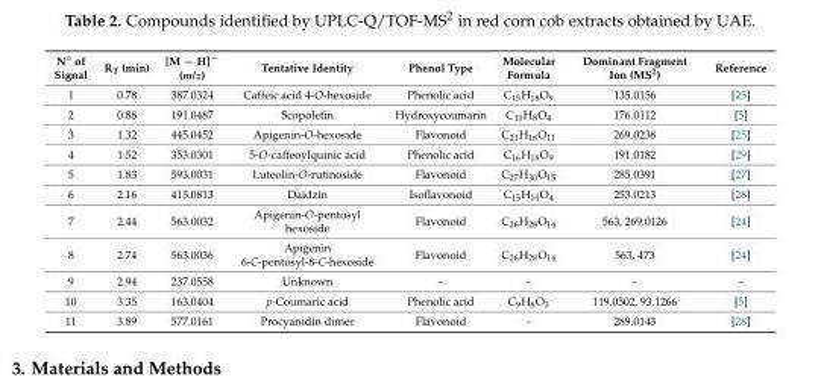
<table><thead><tr><td>N◦ of Signal</td><td>R<sub>T</sub> (min)</td><td>[M − H]<sup>−</sup> (m/z)</td><td>Tentative Identity</td><td>Phenol Type</td><td>Molecular Formula</td><td>Dominant Fragment Ion (MS<sup>2</sup>)</td><td>Reference</td></tr></thead><tbody><tr><td>1</td><td>0.78</td><td>387.0324</td><td>Caffeic acid 4-O-hexoside</td><td>Phenolic acid</td><td>C<sub>15</sub>H<sub>18</sub>O<sub>9</sub></td><td>135.0156</td><td>[25]</td></tr><tr><td>2</td><td>0.88</td><td>191.0487</td><td>Scopoletin</td><td>Hydroxycoumarin</td><td>C<sub>10</sub>H<sub>8</sub>O<sub>4</sub></td><td>176.0112</td><td>[5]</td></tr><tr><td>3</td><td>1.32</td><td>445.0452</td><td>Apigenin-O-hexoside</td><td>Flavonoid</td><td>C<sub>21</sub>H<sub>18</sub>O<sub>11</sub></td><td>269.0238</td><td>[25]</td></tr><tr><td>4</td><td>1.52</td><td>353.0301</td><td>5-O-caffeoylquinic acid</td><td>Phenolic acid</td><td>C<sub>16</sub>H<sub>18</sub>O<sub>9</sub></td><td>191.0182</td><td>[29]</td></tr><tr><td>5</td><td>1.83</td><td>593.0031</td><td>Luteolin-O-rutinoside</td><td>Flavonoid</td><td>C<sub>27</sub>H<sub>30</sub>O<sub>15</sub></td><td>285.0391</td><td>[27]</td></tr><tr><td>6</td><td>2.16</td><td>415.0813</td><td>Daidzin</td><td>Isoflavonoid</td><td>C<sub>15</sub>H<sub>10</sub>O<sub>4</sub></td><td>253.0213</td><td>[28]</td></tr><tr><td>7</td><td>2.44</td><td>563.0032</td><td>Apigenin-O-pentosyl hexoside</td><td>Flavonoid</td><td>C<sub>26</sub>H<sub>28</sub>O<sub>14</sub></td><td>563, 269.0126</td><td>[24]</td></tr><tr><td>8</td><td>2.74</td><td>563.0036</td><td>Apigenin 6-C-pentosyl-8-C-hexoside</td><td>Flavonoid</td><td>C<sub>26</sub>H<sub>28</sub>O<sub>14</sub></td><td>563, 473</td><td>[24]</td></tr><tr><td>9</td><td>2.94</td><td>237.0558</td><td>Unknown</td><td>-</td><td>-</td><td>-</td><td>-</td></tr><tr><td>10</td><td>3.35</td><td>163.0404</td><td>p-Coumaric acid</td><td>Phenolic acid</td><td>C<sub>9</sub>H<sub>8</sub>O<sub>3</sub></td><td>119.0502, 93.1266</td><td>[5]</td></tr><tr><td>11</td><td>3.89</td><td>577.0161</td><td>Procyanidin dimer</td><td>Flavonoid</td><td>-</td><td>289.0143</td><td>[28]</td></tr></tbody></table>